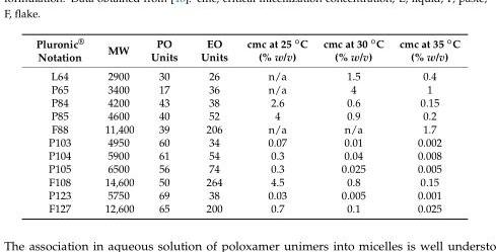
<table><thead><tr><td>Pluronic<sup>®</sup> Notation</td><td>MW</td><td>PO Units</td><td>EO Units</td><td>cmc at 25 ◦C (% w/v)</td><td>cmc at 30 ◦C (% w/v)</td><td>cmc at 35 ◦C (% w/v)</td></tr></thead><tbody><tr><td>L64</td><td>2900</td><td>30</td><td>26</td><td>n/a</td><td>1.5</td><td>0.4</td></tr><tr><td>P65</td><td>3400</td><td>17</td><td>36</td><td>n/a</td><td>4</td><td>1</td></tr><tr><td>P84</td><td>4200</td><td>43</td><td>38</td><td>2.6</td><td>0.6</td><td>0.15</td></tr><tr><td>P85</td><td>4600</td><td>40</td><td>52</td><td>4</td><td>0.9</td><td>0.2</td></tr><tr><td>F88</td><td>11,400</td><td>39</td><td>206</td><td>n/a</td><td>n/a</td><td>1.7</td></tr><tr><td>P103</td><td>4950</td><td>60</td><td>34</td><td>0.07</td><td>0.01</td><td>0.002</td></tr><tr><td>P104</td><td>5900</td><td>61</td><td>54</td><td>0.3</td><td>0.04</td><td>0.008</td></tr><tr><td>P105</td><td>6500</td><td>56</td><td>74</td><td>0.3</td><td>0.025</td><td>0.005</td></tr><tr><td>F108</td><td>14,600</td><td>50</td><td>264</td><td>4.5</td><td>0.8</td><td>0.15</td></tr><tr><td>P123</td><td>5750</td><td>69</td><td>38</td><td>0.03</td><td>0.005</td><td>0.001</td></tr><tr><td>F127</td><td>12,600</td><td>65</td><td>200</td><td>0.7</td><td>0.1</td><td>0.025</td></tr></tbody></table>